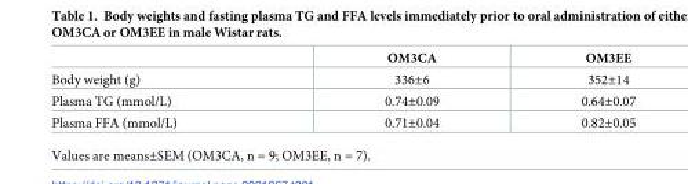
<table><thead><tr><td></td><td>OM3CA</td><td>OM3EE</td></tr></thead><tbody><tr><td>Body weight (g)</td><td>336±6</td><td>352±14</td></tr><tr><td>Plasma TG (mmol/L)</td><td>0.74±0.09</td><td>0.64±0.07</td></tr><tr><td>Plasma FFA (mmol/L)</td><td>0.71±0.04</td><td>0.82±0.05</td></tr></tbody></table>